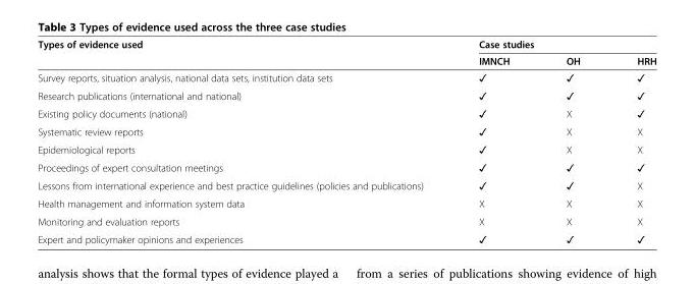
<table><thead><tr><td rowspan="2">Types of evidence used</td><td colspan="2">Case studies</td><td rowspan="2">HRH</td></tr><tr><td>IMNCH</td><td>OH</td></tr></thead><tbody><tr><td>Survey reports, situation analysis, national data sets, institution data sets</td><td>✓</td><td>✓</td><td>✓</td></tr><tr><td>Research publications (international and national)</td><td>✓</td><td>✓</td><td>✓</td></tr><tr><td>Existing policy documents (national)</td><td>✓</td><td>X</td><td>✓</td></tr><tr><td>Systematic review reports</td><td>✓</td><td>X</td><td>X</td></tr><tr><td>Epidemiological reports</td><td>✓</td><td>X</td><td>X</td></tr><tr><td>Proceedings of expert consultation meetings</td><td>✓</td><td>✓</td><td>✓</td></tr><tr><td>Lessons from international experience and best practice guidelines (policies and publications)</td><td>✓</td><td>✓</td><td>X</td></tr><tr><td>Health management and information system data</td><td>X</td><td>X</td><td>X</td></tr><tr><td>Monitoring and evaluation reports</td><td>X</td><td>X</td><td>X</td></tr><tr><td>Expert and policymaker opinions and experiences</td><td>✓</td><td>✓</td><td>✓</td></tr></tbody></table>